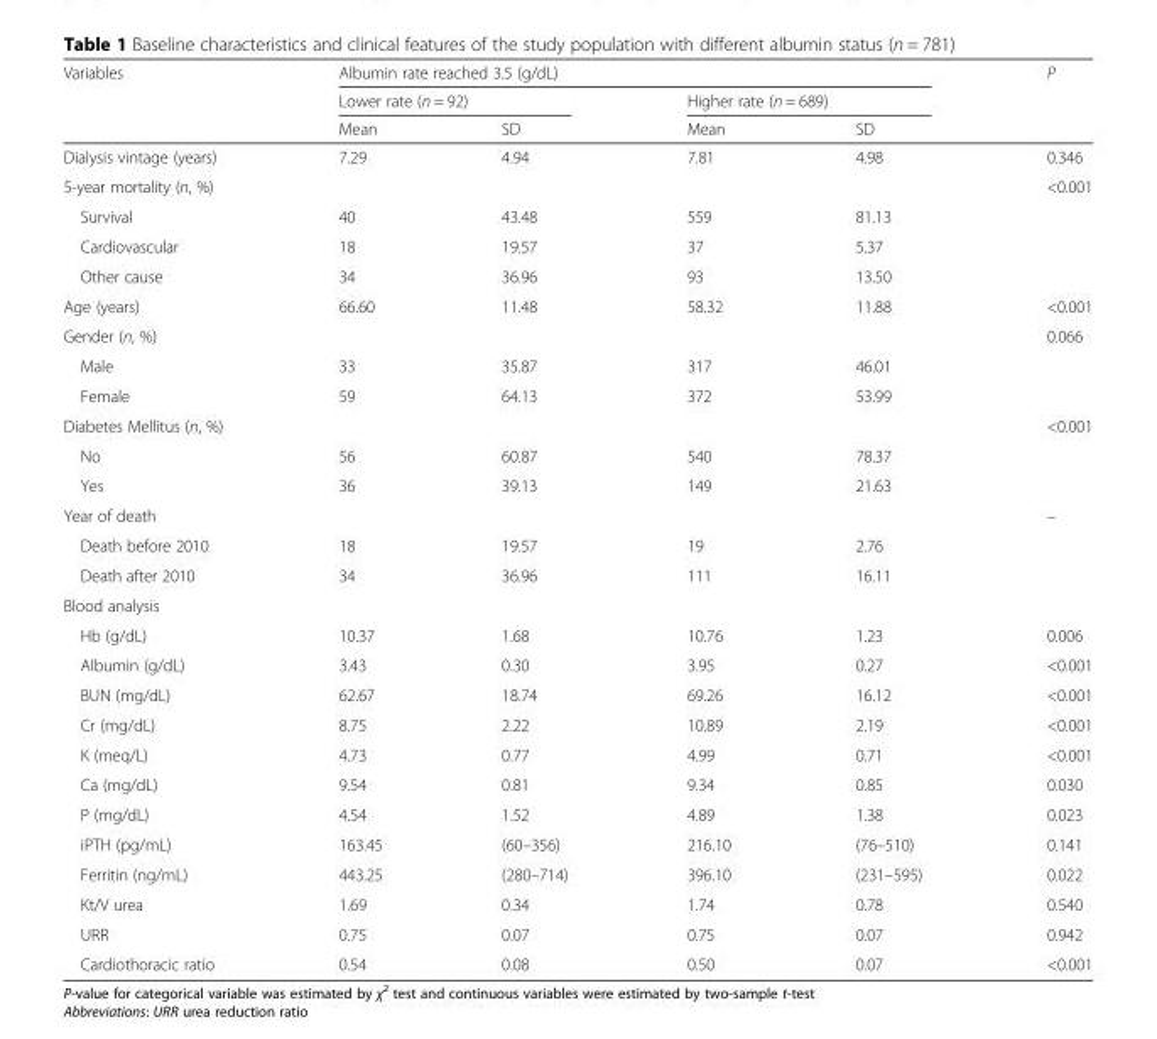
<table><thead><tr><td rowspan="3">Variables</td><td colspan="4">Albumin rate reached 3.5 (g/dL)</td><td rowspan="3">P</td></tr><tr><td colspan="2">Lower rate (n = 92)</td><td colspan="2">Higher rate (n = 689)</td></tr><tr><td>Mean</td><td>SD</td><td>Mean</td><td>SD</td></tr></thead><tbody><tr><td>Dialysis vintage (years)</td><td>7.29</td><td>4.94</td><td>7.81</td><td>4.98</td><td>0.346</td></tr><tr><td>5-year mortality (n, %)</td><td></td><td></td><td></td><td></td><td>&lt;0.001</td></tr><tr><td>Survival</td><td>40</td><td>43.48</td><td>559</td><td>81.13</td><td></td></tr><tr><td>Cardiovascular</td><td>18</td><td>19.57</td><td>37</td><td>5.37</td><td></td></tr><tr><td>Other cause</td><td>34</td><td>36.96</td><td>93</td><td>13.50</td><td></td></tr><tr><td>Age (years)</td><td>66.60</td><td>11.48</td><td>58.32</td><td>11.88</td><td>&lt;0.001</td></tr><tr><td>Gender (n, %)</td><td></td><td></td><td></td><td></td><td>0.066</td></tr><tr><td>Male</td><td>33</td><td>35.87</td><td>317</td><td>46.01</td><td></td></tr><tr><td>Female</td><td>59</td><td>64.13</td><td>372</td><td>53.99</td><td></td></tr><tr><td>Diabetes Mellitus (n, %)</td><td></td><td></td><td></td><td></td><td>&lt;0.001</td></tr><tr><td>No</td><td>56</td><td>60.87</td><td>540</td><td>78.37</td><td></td></tr><tr><td>Yes</td><td>36</td><td>39.13</td><td>149</td><td>21.63</td><td></td></tr><tr><td>Year of death</td><td></td><td></td><td></td><td></td><td>–</td></tr><tr><td>Death before 2010</td><td>18</td><td>19.57</td><td>19</td><td>2.76</td><td></td></tr><tr><td>Death after 2010</td><td>34</td><td>36.96</td><td>111</td><td>16.11</td><td></td></tr><tr><td colspan="6">Blood analysis</td></tr><tr><td>Hb (g/dL)</td><td>10.37</td><td>1.68</td><td>10.76</td><td>1.23</td><td>0.006</td></tr><tr><td>Albumin (g/dL)</td><td>3.43</td><td>0.30</td><td>3.95</td><td>0.27</td><td>&lt;0.001</td></tr><tr><td>BUN (mg/dL)</td><td>62.67</td><td>18.74</td><td>69.26</td><td>16.12</td><td>&lt;0.001</td></tr><tr><td>Cr (mg/dL)</td><td>8.75</td><td>2.22</td><td>10.89</td><td>2.19</td><td>&lt;0.001</td></tr><tr><td>K (meq/L)</td><td>4.73</td><td>0.77</td><td>4.99</td><td>0.71</td><td>&lt;0.001</td></tr><tr><td>Ca (mg/dL)</td><td>9.54</td><td>0.81</td><td>9.34</td><td>0.85</td><td>0.030</td></tr><tr><td>P (mg/dL)</td><td>4.54</td><td>1.52</td><td>4.89</td><td>1.38</td><td>0.023</td></tr><tr><td>iPTH (pg/mL)</td><td>163.45</td><td>(60–356)</td><td>216.10</td><td>(76–510)</td><td>0.141</td></tr><tr><td>Ferritin (ng/mL)</td><td>443.25</td><td>(280–714)</td><td>396.10</td><td>(231–595)</td><td>0.022</td></tr><tr><td>Kt/V urea</td><td>1.69</td><td>0.34</td><td>1.74</td><td>0.78</td><td>0.540</td></tr><tr><td>URR</td><td>0.75</td><td>0.07</td><td>0.75</td><td>0.07</td><td>0.942</td></tr><tr><td>Cardiothoracic ratio</td><td>0.54</td><td>0.08</td><td>0.50</td><td>0.07</td><td>&lt;0.001</td></tr></tbody></table>